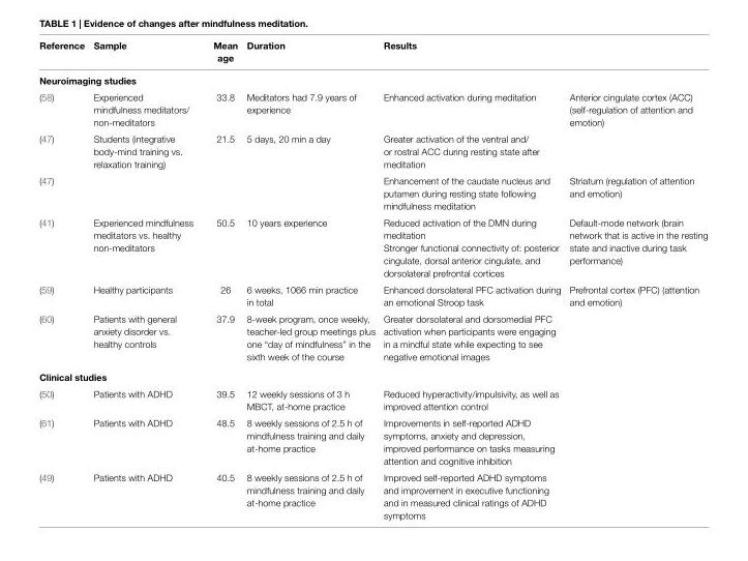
<table><thead><tr><td>reference</td><td>sample</td><td>Mean age</td><td>Duration</td><td>results</td><td></td></tr></thead><tbody><tr><td colspan="6">Neuroimaging studies</td></tr><tr><td>(58)</td><td>Experienced mindfulness meditators/ non-meditators</td><td>33.8</td><td>Meditators had 7.9 years of experience</td><td>Enhanced activation during meditation</td><td>Anterior cingulate cortex (ACC) (self-regulation of attention and emotion)</td></tr><tr><td>(47)</td><td>Students (integrative body-mind training vs. relaxation training)</td><td>21.5</td><td>5 days, 20 min a day</td><td>Greater activation of the ventral and/ or rostral ACC during resting state after meditation</td><td></td></tr><tr><td>(47)</td><td></td><td></td><td></td><td>Enhancement of the caudate nucleus and putamen during resting state following mindfulness meditation</td><td>Striatum (regulation of attention and emotion)</td></tr><tr><td rowspan="2">(41)</td><td rowspan="2">Experienced mindfulness meditators vs. healthy non-meditators</td><td rowspan="2">50.5</td><td rowspan="2">10 years experience</td><td>Reduced activation of the DMN during meditation</td><td rowspan="2">Default-mode network (brain network that is active in the resting state and inactive during task performance)</td></tr><tr><td>Stronger functional connectivity of: posterior cingulate, dorsal anterior cingulate, and dorsolateral prefrontal cortices</td></tr><tr><td>(59)</td><td>Healthy participants</td><td>26</td><td>6 weeks, 1066 min practice in total</td><td>Enhanced dorsolateral PFC activation during an emotional Stroop task</td><td rowspan="2">Prefrontal cortex (PFC) (attention and emotion)</td></tr><tr><td>(60)</td><td>Patients with general anxiety disorder vs. healthy controls</td><td>37.9</td><td>8-week program, once weekly, teacher-led group meetings plus one “day of mindfulness” in the sixth week of the course</td><td>Greater dorsolateral and dorsomedial PFC activation when participants were engaging in a mindful state while expecting to see negative emotional images</td></tr><tr><td colspan="6">clinical studies</td></tr><tr><td>(50)</td><td>Patients with ADHD</td><td>39.5</td><td>12 weekly sessions of 3 h MBCT, at-home practice</td><td>Reduced hyperactivity/impulsivity, as well as improved attention control</td><td></td></tr><tr><td>(61)</td><td>Patients with ADHD</td><td>48.5</td><td>8 weekly sessions of 2.5 h of mindfulness training and daily at-home practice</td><td>Improvements in self-reported ADHD symptoms, anxiety and depression, improved performance on tasks measuring attention and cognitive inhibition</td><td></td></tr><tr><td>(49)</td><td>Patients with ADHD</td><td>40.5</td><td>8 weekly sessions of 2.5 h of mindfulness training and daily at-home practice</td><td>Improved self-reported ADHD symptoms and improvement in executive functioning and in measured clinical ratings of ADHD symptoms</td><td></td></tr></tbody></table>